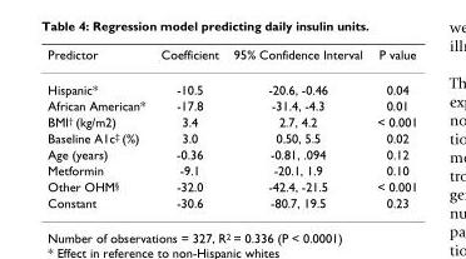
<table><thead><tr><td>Predictor</td><td>Coefficient</td><td>95% Confidence Interval</td><td>P value</td></tr></thead><tbody><tr><td>Hispanic*</td><td>-10.5</td><td>-20.6, -0.46</td><td>0.04</td></tr><tr><td>African American*</td><td>-17.8</td><td>-31.4, -4.3</td><td>0.01</td></tr><tr><td>BMI† (kg/m2)</td><td>3.4</td><td>2.7, 4.2</td><td>&lt; 0.001</td></tr><tr><td>Baseline A1c‡ (%)</td><td>3.0</td><td>0.50, 5.5</td><td>0.02</td></tr><tr><td>Age (years)</td><td>-0.36</td><td>-0.81, .094</td><td>0.12</td></tr><tr><td>Metformin</td><td>-9.1</td><td>-20.1, 1.9</td><td>0.10</td></tr><tr><td>Other OHM§</td><td>-32.0</td><td>-42.4, -21.5</td><td>&lt; 0.001</td></tr><tr><td>Constant</td><td>-30.6</td><td>-80.7, 19.5</td><td>0.23</td></tr></tbody></table>